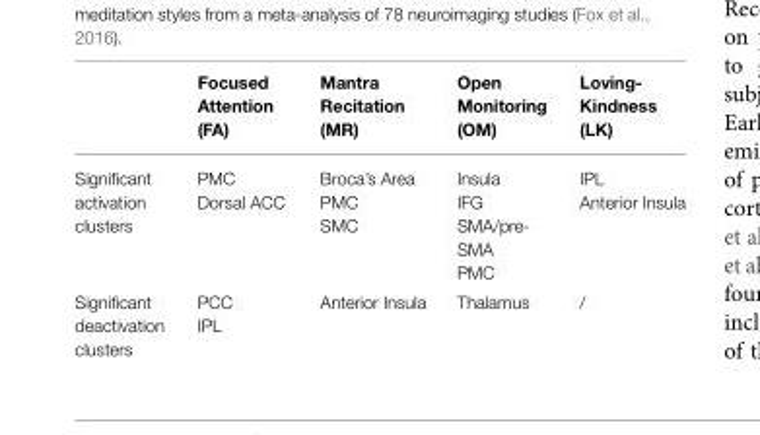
<table><thead><tr><td></td><td>Focused Attention (FA)</td><td>Mantra Recitation (MR)</td><td>Open Monitoring (OM)</td><td>Loving- Kindness (LK)</td></tr></thead><tbody><tr><td>Significant activation clusters</td><td>PMC Dorsal ACC</td><td>Broca’s Area PMC SMC</td><td>Insula IFG SMA/pre- SMA PMC</td><td>IPL Anterior Insula</td></tr><tr><td>Significant deactivation clusters</td><td>PCC IPL</td><td>Anterior Insula</td><td>Thalamus</td><td>/</td></tr></tbody></table>